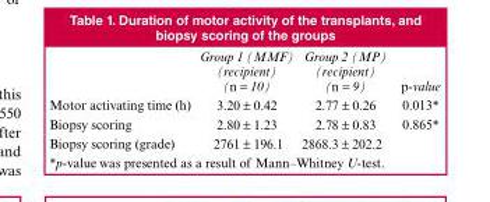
<table><thead><tr><td></td><td>Group 1 (MMF) (recipient) (n = 10)</td><td>Group 2 (MP) (recipient) (n = 9)</td><td>p-value</td></tr></thead><tbody><tr><td>Motor activating time (h)</td><td>3.20 ± 0.42</td><td>2.77 ± 0.26</td><td>0.013*</td></tr><tr><td>Biopsy scoring</td><td>2.80 ± 1.23</td><td>2.78 ± 0.83</td><td>0.865*</td></tr><tr><td>Biopsy scoring (grade)</td><td>2761 ± 196.1</td><td>2868.3 ± 202.2</td><td></td></tr></tbody></table>